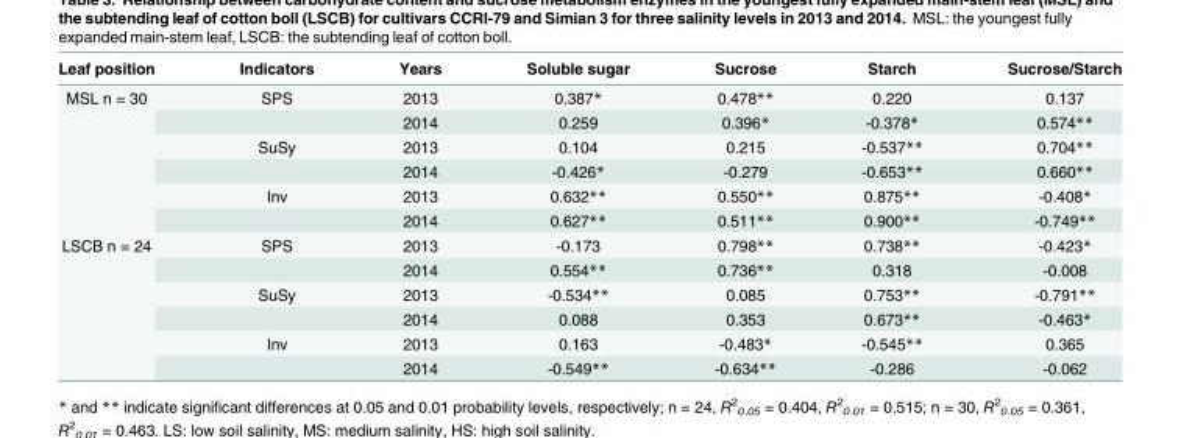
<table><thead><tr><td>Leaf position</td><td>Indicators</td><td>Years</td><td>Soluble sugar</td><td>Sucrose</td><td>Starch</td><td>Sucrose/Starch</td></tr></thead><tbody><tr><td rowspan="6">MSL n = 30</td><td>SPS</td><td>2013</td><td>0.387*</td><td>0.478**</td><td>0.220</td><td>0.137</td></tr><tr><td></td><td>2014</td><td>0.259</td><td>0.396*</td><td>-0.378*</td><td>0.574**</td></tr><tr><td>SuSy</td><td>2013</td><td>0.104</td><td>0.215</td><td>-0.537**</td><td>0.704**</td></tr><tr><td></td><td>2014</td><td>-0.426*</td><td>-0.279</td><td>-0.653**</td><td>0.660**</td></tr><tr><td>Inv</td><td>2013</td><td>0.632**</td><td>0.550**</td><td>0.875**</td><td>-0.408*</td></tr><tr><td></td><td>2014</td><td>0.627**</td><td>0.511**</td><td>0.900**</td><td>-0.749**</td></tr><tr><td rowspan="6">LSCB n = 24</td><td>SPS</td><td>2013</td><td>-0.173</td><td>0.798**</td><td>0.738**</td><td>-0.423*</td></tr><tr><td></td><td>2014</td><td>0.554**</td><td>0.736**</td><td>0.318</td><td>-0.008</td></tr><tr><td>SuSy</td><td>2013</td><td>-0.534**</td><td>0.085</td><td>0.753**</td><td>-0.791**</td></tr><tr><td></td><td>2014</td><td>0.088</td><td>0.353</td><td>0.673**</td><td>-0.463*</td></tr><tr><td>Inv</td><td>2013</td><td>0.163</td><td>-0.483*</td><td>-0.545**</td><td>0.365</td></tr><tr><td></td><td>2014</td><td>-0.549**</td><td>-0.634**</td><td>-0.286</td><td>-0.062</td></tr></tbody></table>